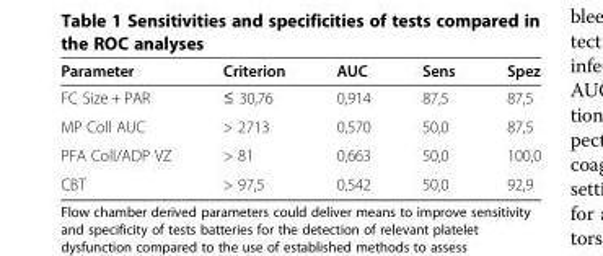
<table><thead><tr><td>Parameter</td><td>Criterion</td><td>AUC</td><td>Sens</td><td>Spez</td></tr></thead><tbody><tr><td>FC Size + PAR</td><td>≤ 30,76</td><td>0,914</td><td>87,5</td><td>87,5</td></tr><tr><td>MP Coll AUC</td><td>&gt; 2713</td><td>0,570</td><td>50,0</td><td>87,5</td></tr><tr><td>PFA Coll/ADP VZ</td><td>&gt; 81</td><td>0,663</td><td>50,0</td><td>100,0</td></tr><tr><td>CBT</td><td>&gt; 97,5</td><td>0,542</td><td>50,0</td><td>92,9</td></tr></tbody></table>